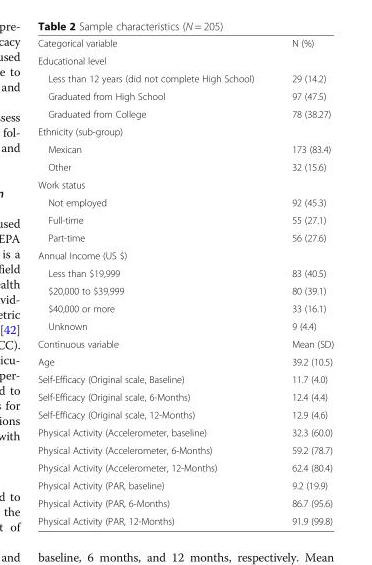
<table><tbody><tr><td>Categorical variable</td><td>N (%)</td></tr><tr><td colspan="2">Educational level</td></tr><tr><td>Less than 12 years (did not complete High School)</td><td>29 (14.2)</td></tr><tr><td>Graduated from High School</td><td>97 (47.5)</td></tr><tr><td>Graduated from College</td><td>78 (38.27)</td></tr><tr><td colspan="2">Ethnicity (sub-group)</td></tr><tr><td>Mexican</td><td>173 (83.4)</td></tr><tr><td>Other</td><td>32 (15.6)</td></tr><tr><td colspan="2">Work status</td></tr><tr><td>Not employed</td><td>92 (45.3)</td></tr><tr><td>Full-time</td><td>55 (27.1)</td></tr><tr><td>Part-time</td><td>56 (27.6)</td></tr><tr><td colspan="2">Annual Income (US $)</td></tr><tr><td>Less than $19,999</td><td>83 (40.5)</td></tr><tr><td>$20,000 to $39,999</td><td>80 (39.1)</td></tr><tr><td>$40,000 or more</td><td>33 (16.1)</td></tr><tr><td>Unknown</td><td>9 (4.4)</td></tr><tr><td>Continuous variable</td><td>Mean (SD)</td></tr><tr><td>Age</td><td>39.2 (10.5)</td></tr><tr><td>Self-Efficacy (Original scale, Baseline)</td><td>11.7 (4.0)</td></tr><tr><td>Self-Efficacy (Original scale, 6-Months)</td><td>12.4 (4.4)</td></tr><tr><td>Self-Efficacy (Original scale, 12-Months)</td><td>12.9 (4.6)</td></tr><tr><td>Physical Activity (Accelerometer, baseline)</td><td>32.3 (60.0)</td></tr><tr><td>Physical Activity (Accelerometer, 6-Months)</td><td>59.2 (78.7)</td></tr><tr><td>Physical Activity (Accelerometer, 12-Months)</td><td>62.4 (80.4)</td></tr><tr><td>Physical Activity (PAR, baseline)</td><td>9.2 (19.9)</td></tr><tr><td>Physical Activity (PAR, 6-Months)</td><td>86.7 (95.6)</td></tr><tr><td>Physical Activity (PAR, 12-Months)</td><td>91.9 (99.8)</td></tr></tbody></table>